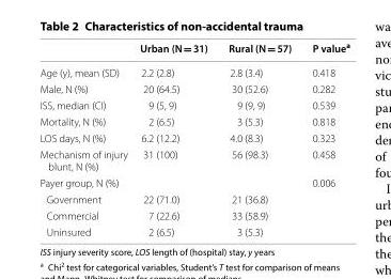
<table><thead><tr><td></td><td>Urban (N = 31)</td><td>Rural (N = 57)</td><td>P value<sup>a</sup></td></tr></thead><tbody><tr><td>Age (y), mean (SD)</td><td>2.2 (2.8)</td><td>2.8 (3.4)</td><td>0.418</td></tr><tr><td>Male, N (%)</td><td>20 (64.5)</td><td>30 (52.6)</td><td>0.282</td></tr><tr><td>ISS, median (CI)</td><td>9 (5, 9)</td><td>9 (9, 9)</td><td>0.539</td></tr><tr><td>Mortality, N (%)</td><td>2 (6.5)</td><td>3 (5.3)</td><td>0.818</td></tr><tr><td>LOS days, N (%)</td><td>6.2 (12.2)</td><td>4.0 (8.3)</td><td>0.323</td></tr><tr><td>Mechanism of injury blunt, N (%)</td><td>31 (100)</td><td>56 (98.3)</td><td>0.458</td></tr><tr><td>Payer group, N (%)</td><td></td><td></td><td>0.006</td></tr><tr><td>Government</td><td>22 (71.0)</td><td>21 (36.8)</td><td></td></tr><tr><td>Commercial</td><td>7 (22.6)</td><td>33 (58.9)</td><td></td></tr><tr><td>Uninsured</td><td>2 (6.5)</td><td>3 (5.3)</td><td></td></tr></tbody></table>